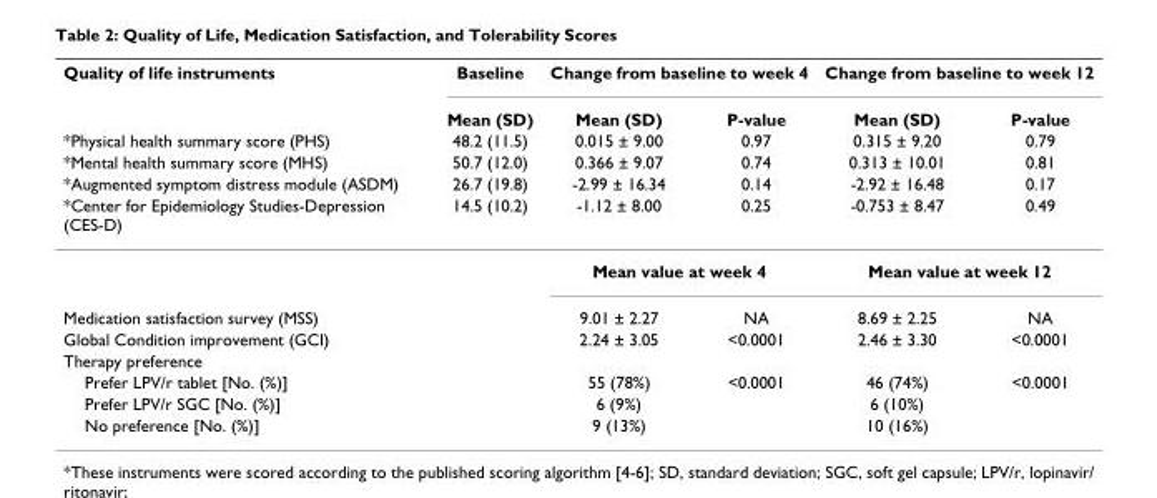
<table><thead><tr><td rowspan="6">Quality of life instruments *Physical health summary score (PHS) *Mental health summary score (MHS) *Augmented symptom distress module (ASDM) *Center for Epidemiology Studies-Depression (CES-D)</td><td rowspan="6">Baseline Mean (SD) 48.2 (11.5) 50.7 (12.0) 26.7 (19.8) 14.5 (10.2)</td><td colspan="2">Change from baseline to week 4</td><td colspan="2">Change from baseline to week 12</td></tr><tr><td rowspan="5">Mean (SD) 0.015 ± 9.00 0.366 ± 9.07 -2.99 ± 16.34 -1.12 ± 8.00</td><td rowspan="5">P-value 0.97 0.74 0.14 0.25</td><td rowspan="5">Mean (SD) 0.315 ± 9.20 0.313 ± 10.01 -2.92 ± 16.48 -0.753 ± 8.47</td><td rowspan="5">P-value 0.79 0.81 0.17 0.49</td></tr><tr></tr><tr></tr><tr></tr><tr></tr></thead><tbody><tr><td></td><td></td><td colspan="2">Mean value at week 4</td><td colspan="2">Mean value at week 12</td></tr><tr><td>Medication satisfaction survey (MSS)</td><td></td><td>9.01 ± 2.27</td><td>NA</td><td>8.69 ± 2.25</td><td>NA</td></tr><tr><td>Global Condition improvement (GCI)</td><td></td><td>2.24 ± 3.05</td><td>&lt;0.0001</td><td>2.46 ± 3.30</td><td>&lt;0.0001</td></tr><tr><td colspan="6">Therapy preference</td></tr><tr><td>Prefer LPV/r tablet [No. (%)]</td><td></td><td>55 (78%)</td><td>&lt;0.0001</td><td>46 (74%)</td><td>&lt;0.0001</td></tr><tr><td>Prefer LPV/r SGC [No. (%)]</td><td></td><td>6 (9%)</td><td></td><td>6 (10%)</td><td></td></tr><tr><td>No preference [No. (%)]</td><td></td><td>9 (13%)</td><td></td><td>10 (16%)</td><td></td></tr></tbody></table>